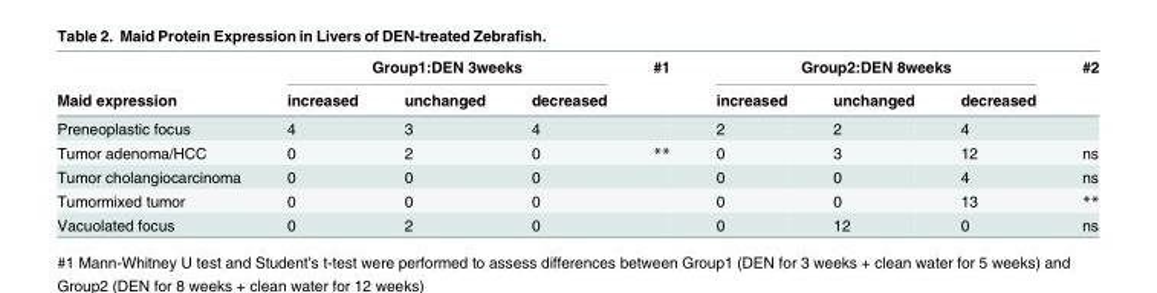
<table><thead><tr><td rowspan="2">Maid expression</td><td colspan="3">Group1:DEN 3weeks</td><td rowspan="2">#1</td><td colspan="3">Group2:DEN 8weeks</td><td rowspan="2">#2</td></tr><tr><td>increased</td><td>unchanged</td><td>decreased</td><td>increased</td><td>unchanged</td><td>decreased</td></tr></thead><tbody><tr><td>Preneoplastic focus</td><td>4</td><td>3</td><td>4</td><td></td><td>2</td><td>2</td><td>4</td><td></td></tr><tr><td>Tumor adenoma/HCC</td><td>0</td><td>2</td><td>0</td><td>**</td><td>0</td><td>3</td><td>12</td><td>ns</td></tr><tr><td>Tumor cholangiocarcinoma</td><td>0</td><td>0</td><td>0</td><td></td><td>0</td><td>0</td><td>4</td><td>ns</td></tr><tr><td>Tumormixed tumor</td><td>0</td><td>0</td><td>0</td><td></td><td>0</td><td>0</td><td>13</td><td>**</td></tr><tr><td>Vacuolated focus</td><td>0</td><td>2</td><td>0</td><td></td><td>0</td><td>12</td><td>0</td><td>ns</td></tr></tbody></table>